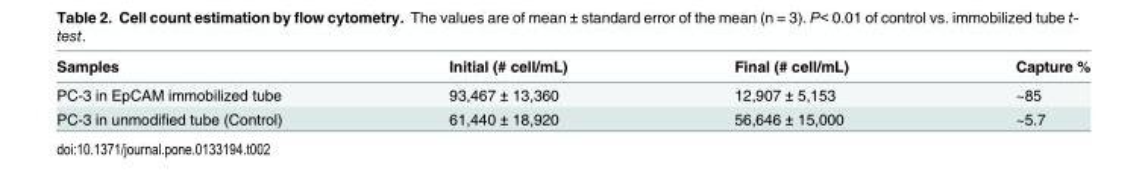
<table><thead><tr><td>Samples</td><td>Initial (# cell/mL)</td><td>Final (# cell/mL)</td><td>Capture %</td></tr></thead><tbody><tr><td>PC-3 in EpCAM immobilized tube</td><td>93,467 ± 13,360</td><td>12,907 ± 5,153</td><td>~85</td></tr><tr><td>PC-3 in unmodified tube (Control)</td><td>61,440 ± 18,920</td><td>56,646 ± 15,000</td><td>~5.7</td></tr></tbody></table>